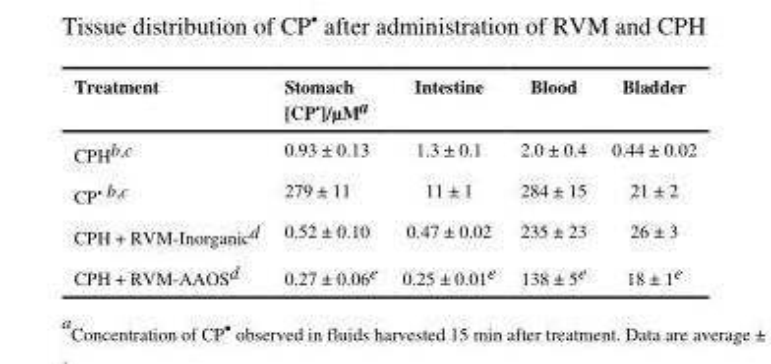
<table><thead><tr><td>Treatment</td><td>Stomach [CP<sup>•</sup>]/µM<sup>a</sup></td><td>Intestine</td><td>Blood</td><td>Bladder</td></tr></thead><tbody><tr><td>CPH<sup>b</sup>,<sup>c</sup></td><td>0.93 ± 0.13</td><td>1.3 ± 0.1</td><td>2.0 ± 0.4</td><td>0.44 ± 0.02</td></tr><tr><td>CP<sup>•</sup> b,c</td><td>279 ± 11</td><td>11 ± 1</td><td>284 ± 15</td><td>21 ± 2</td></tr><tr><td>CPH + RVM-Inorganic<sup>d</sup></td><td>0.52 ± 0.10</td><td>0.47 ± 0.02</td><td>235 ± 23</td><td>26 ± 3</td></tr><tr><td>CPH + RVM-AAOS<sup>d</sup></td><td>0.27 ± 0.06<sup>e</sup></td><td>0.25 ± 0.01<sup>e</sup></td><td>138 ± 5<sup>e</sup></td><td>18 ± 1<sup>e</sup></td></tr></tbody></table>